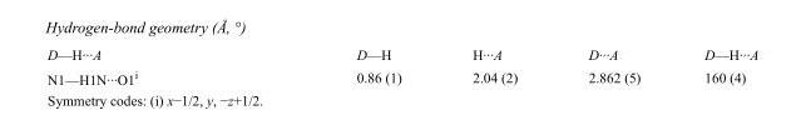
<table><tbody><tr><td>D—H···A</td><td>D—H</td><td>H···A</td><td>D···A</td><td>D—H···A</td></tr><tr><td>N1—H1N···O1<sup>i</sup></td><td>0.86 (1)</td><td>2.04 (2)</td><td>2.862 (5)</td><td>160 (4)</td></tr></tbody></table>